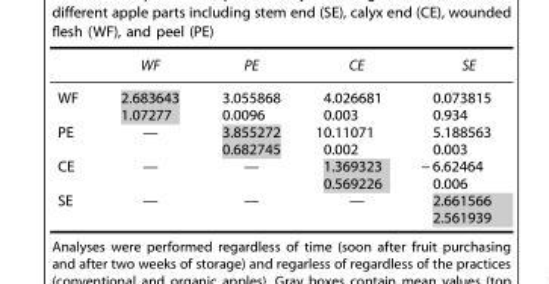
<table><thead><tr><td></td><td>WF</td><td>PE</td><td>CE</td><td>SE</td></tr></thead><tbody><tr><td rowspan="2">WF</td><td>2.683643</td><td>3.055868</td><td>4.026681</td><td>0.073815</td></tr><tr><td>1.07277</td><td>0.0096</td><td>0.003</td><td>0.934</td></tr><tr><td rowspan="2">PE</td><td>—</td><td>3.855272</td><td>10.11071</td><td>5.188563</td></tr><tr><td></td><td>0.682745</td><td>0.002</td><td>0.003</td></tr><tr><td rowspan="2">CE</td><td>—</td><td>—</td><td>1.369323</td><td>− 6.62464</td></tr><tr><td></td><td></td><td>0.569226</td><td>0.006</td></tr><tr><td rowspan="2">SE</td><td>—</td><td>—</td><td>—</td><td>2.661566</td></tr><tr><td></td><td></td><td></td><td>2.561939</td></tr></tbody></table>